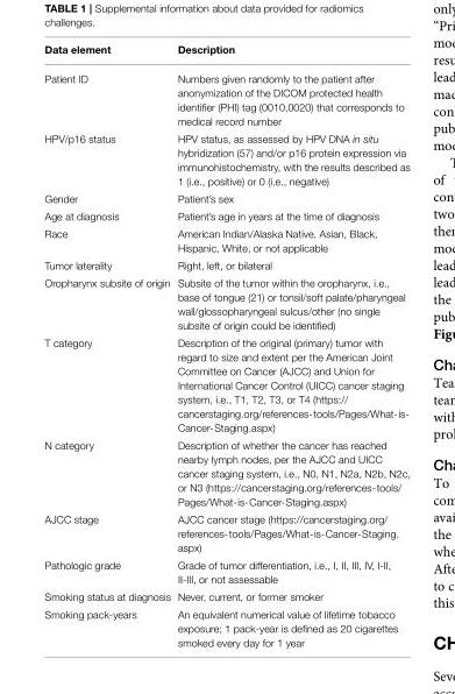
<table><thead><tr><td>Data element</td><td>Description</td></tr></thead><tbody><tr><td>Patient ID</td><td>Numbers given randomly to the patient after anonymization of the DICOM protected health identifier (PHI) tag (0010,0020) that corresponds to medical record number</td></tr><tr><td>HPV/p16 status</td><td>HPV status, as assessed by HPV DNA in situ hybridization (57) and/or p16 protein expression via immunohistochemistry, with the results described as 1 (i.e., positive) or 0 (i.e., negative)</td></tr><tr><td>Gender</td><td>Patient’s sex</td></tr><tr><td>Age at diagnosis</td><td>Patient’s age in years at the time of diagnosis</td></tr><tr><td>Race</td><td>American Indian/Alaska Native, Asian, Black, Hispanic, White, or not applicable</td></tr><tr><td>Tumor laterality</td><td>Right, left, or bilateral</td></tr><tr><td>Oropharynx subsite of origin</td><td>Subsite of the tumor within the oropharynx, i.e., base of tongue (21) or tonsil/soft palate/pharyngeal wall/glossopharyngeal sulcus/other (no single subsite of origin could be identified)</td></tr><tr><td>T category</td><td>Description of the original (primary) tumor with regard to size and extent per the American Joint Committee on Cancer (AJCC) and Union for International Cancer Control (UICC) cancer staging system, i.e., T1, T2, T3, or T4 (https:// cancerstaging.org/references-tools/Pages/What-is- Cancer-Staging.aspx)</td></tr><tr><td>N category</td><td>Description of whether the cancer has reached nearby lymph nodes, per the AJCC and UICC cancer staging system, i.e., N0, N1, N2a, N2b, N2c, or N3 (https://cancerstaging.org/references-tools/ Pages/What-is-Cancer-Staging.aspx)</td></tr><tr><td>AJCC stage</td><td>AJCC cancer stage (https://cancerstaging.org/ references-tools/Pages/What-is-Cancer-Staging. aspx)</td></tr><tr><td>Pathologic grade</td><td>Grade of tumor differentiation, i.e., I, II, III, IV, I-II, II-III, or not assessable</td></tr><tr><td>Smoking status at diagnosis</td><td>Never, current, or former smoker</td></tr><tr><td>Smoking pack-years</td><td>An equivalent numerical value of lifetime tobacco exposure; 1 pack-year is defined as 20 cigarettes smoked every day for 1 year</td></tr></tbody></table>